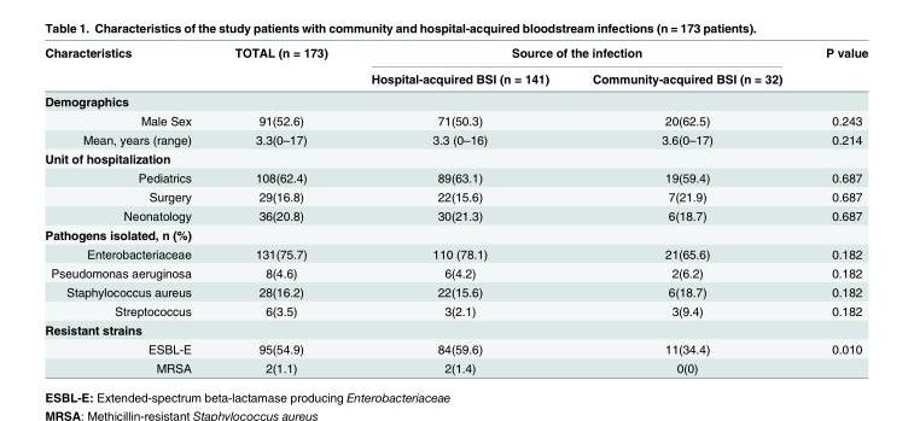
<table><thead><tr><td rowspan="2">Characteristics</td><td rowspan="2">TOTAL (n = 173)</td><td colspan="2">Source of the infection</td><td rowspan="2">P value</td></tr><tr><td>Hospital-acquired BSI (n = 141)</td><td>Community-acquired BSI (n = 32)</td></tr></thead><tbody><tr><td colspan="5">Demographics</td></tr><tr><td>Male Sex</td><td>91(52.6)</td><td>71(50.3)</td><td>20(62.5)</td><td>0.243</td></tr><tr><td>Mean, years (range)</td><td>3.3(0–17)</td><td>3.3 (0–16)</td><td>3.6(0–17)</td><td>0.214</td></tr><tr><td colspan="5">Unit of hospitalization</td></tr><tr><td>Pediatrics</td><td>108(62.4)</td><td>89(63.1)</td><td>19(59.4)</td><td>0.687</td></tr><tr><td>Surgery</td><td>29(16.8)</td><td>22(15.6)</td><td>7(21.9)</td><td>0.687</td></tr><tr><td>Neonatology</td><td>36(20.8)</td><td>30(21.3)</td><td>6(18.7)</td><td>0.687</td></tr><tr><td colspan="5">Pathogens isolated, n (%)</td></tr><tr><td>Enterobacteriaceae</td><td>131(75.7)</td><td>110 (78.1)</td><td>21(65.6)</td><td>0.182</td></tr><tr><td>Pseudomonas aeruginosa</td><td>8(4.6)</td><td>6(4.2)</td><td>2(6.2)</td><td>0.182</td></tr><tr><td>Staphylococcus aureus</td><td>28(16.2)</td><td>22(15.6)</td><td>6(18.7)</td><td>0.182</td></tr><tr><td>Streptococcus</td><td>6(3.5)</td><td>3(2.1)</td><td>3(9.4)</td><td>0.182</td></tr><tr><td colspan="5">Resistant strains</td></tr><tr><td>ESBL-E</td><td>95(54.9)</td><td>84(59.6)</td><td>11(34.4)</td><td>0.010</td></tr><tr><td>MRSA</td><td>2(1.1)</td><td>2(1.4)</td><td>0(0)</td><td></td></tr></tbody></table>